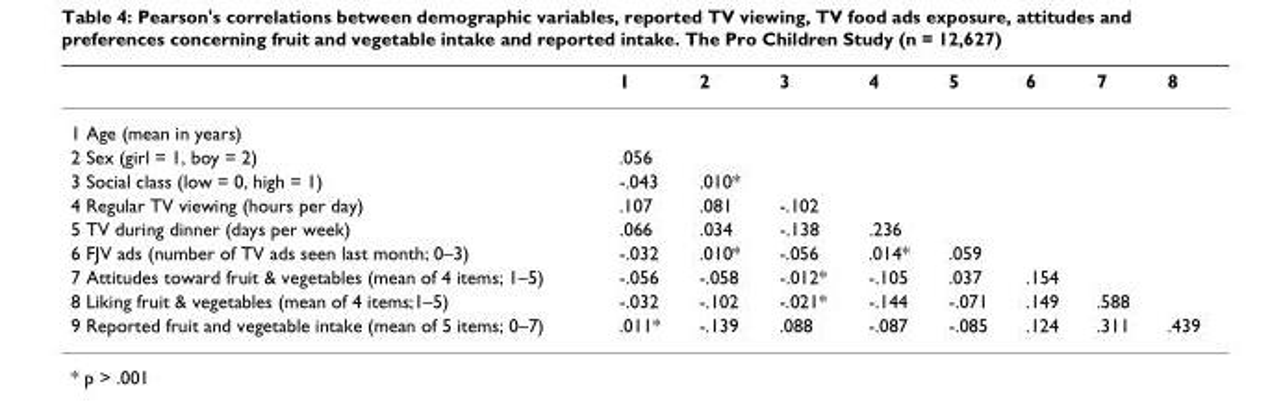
<table><thead><tr><td></td><td>1</td><td>2</td><td>3</td><td>4</td><td>5</td><td>6</td><td>7</td><td>8</td></tr></thead><tbody><tr><td colspan="9">1 Age (mean in years)</td></tr><tr><td>2 Sex (girl = 1, boy = 2)</td><td>.056</td><td></td><td></td><td></td><td></td><td></td><td></td><td></td></tr><tr><td>3 Social class (low = 0, high = 1)</td><td>-.043</td><td>.010*</td><td></td><td></td><td></td><td></td><td></td><td></td></tr><tr><td>4 Regular TV viewing (hours per day)</td><td>.107</td><td>.081</td><td>-.102</td><td></td><td></td><td></td><td></td><td></td></tr><tr><td>5 TV during dinner (days per week)</td><td>.066</td><td>.034</td><td>-.138</td><td>.236</td><td></td><td></td><td></td><td></td></tr><tr><td>6 FJV ads (number of TV ads seen last month; 0–3)</td><td>-.032</td><td>.010*</td><td>-.056</td><td>.014*</td><td>.059</td><td></td><td></td><td></td></tr><tr><td>7 Attitudes toward fruit &amp; vegetables (mean of 4 items; 1–5)</td><td>-.056</td><td>-.058</td><td>-.012*</td><td>-.105</td><td>.037</td><td>.154</td><td></td><td></td></tr><tr><td>8 Liking fruit &amp; vegetables (mean of 4 items;1–5)</td><td>-.032</td><td>-.102</td><td>-.021*</td><td>-.144</td><td>-.071</td><td>.149</td><td>.588</td><td></td></tr><tr><td>9 Reported fruit and vegetable intake (mean of 5 items; 0–7)</td><td>.011*</td><td>-.139</td><td>.088</td><td>-.087</td><td>-.085</td><td>.124</td><td>.311</td><td>.439</td></tr></tbody></table>